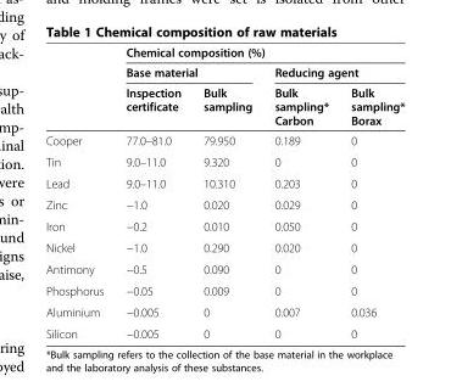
<table><thead><tr><td rowspan="3"></td><td colspan="4">Chemical composition (%)</td></tr><tr><td colspan="2">Base material</td><td colspan="2">Reducing agent</td></tr><tr><td>Inspection certificate</td><td>Bulk sampling</td><td>Bulk sampling* Carbon</td><td>Bulk sampling* Borax</td></tr></thead><tbody><tr><td>Cooper</td><td>77.0–81.0</td><td>79.950</td><td>0.189</td><td>0</td></tr><tr><td>Tin</td><td>9.0–11.0</td><td>9.320</td><td>0</td><td>0</td></tr><tr><td>Lead</td><td>9.0–11.0</td><td>10.310</td><td>0.203</td><td>0</td></tr><tr><td>Zinc</td><td>−1.0</td><td>0.020</td><td>0.029</td><td>0</td></tr><tr><td>Iron</td><td>−0.2</td><td>0.010</td><td>0.050</td><td>0</td></tr><tr><td>Nickel</td><td>−1.0</td><td>0.290</td><td>0.020</td><td>0</td></tr><tr><td>Antimony</td><td>−0.5</td><td>0.090</td><td>0</td><td>0</td></tr><tr><td>Phosphorus</td><td>−0.05</td><td>0.009</td><td>0</td><td>0</td></tr><tr><td>Aluminium</td><td>−0.005</td><td>0</td><td>0.007</td><td>0.036</td></tr><tr><td>Silicon</td><td>−0.005</td><td>0</td><td>0</td><td>0</td></tr></tbody></table>